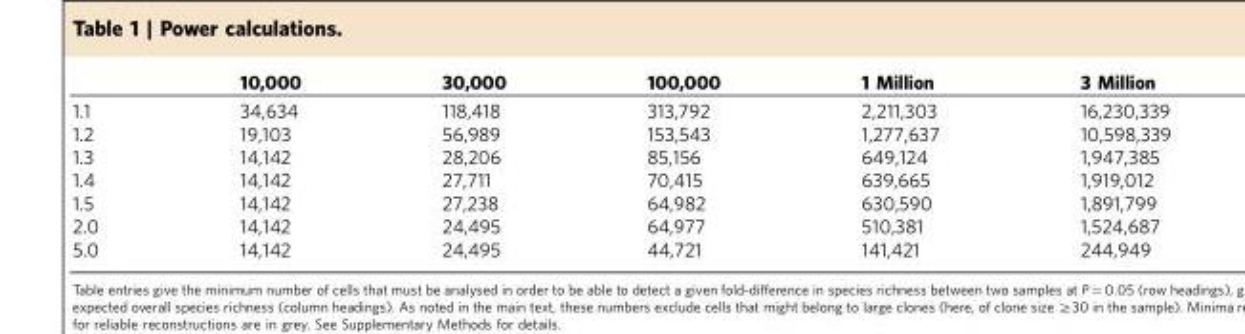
<table><thead><tr><td></td><td>10,000</td><td>30,000</td><td>100,000</td><td>1 Million</td><td>3 Million</td></tr></thead><tbody><tr><td>1.1</td><td>34,634</td><td>118,418</td><td>313,792</td><td>2,211,303</td><td>16,230,339</td></tr><tr><td>1.2</td><td>19,103</td><td>56,989</td><td>153,543</td><td>1,277,637</td><td>10,598,339</td></tr><tr><td>1.3</td><td>14,142</td><td>28,206</td><td>85,156</td><td>649,124</td><td>1,947,385</td></tr><tr><td>1.4</td><td>14,142</td><td>27,711</td><td>70,415</td><td>639,665</td><td>1,919,012</td></tr><tr><td>1.5</td><td>14,142</td><td>27,238</td><td>64,982</td><td>630,590</td><td>1,891,799</td></tr><tr><td>2.0</td><td>14,142</td><td>24,495</td><td>64,977</td><td>510,381</td><td>1,524,687</td></tr><tr><td>5.0</td><td>14,142</td><td>24,495</td><td>44,721</td><td>141,421</td><td>244,949</td></tr></tbody></table>